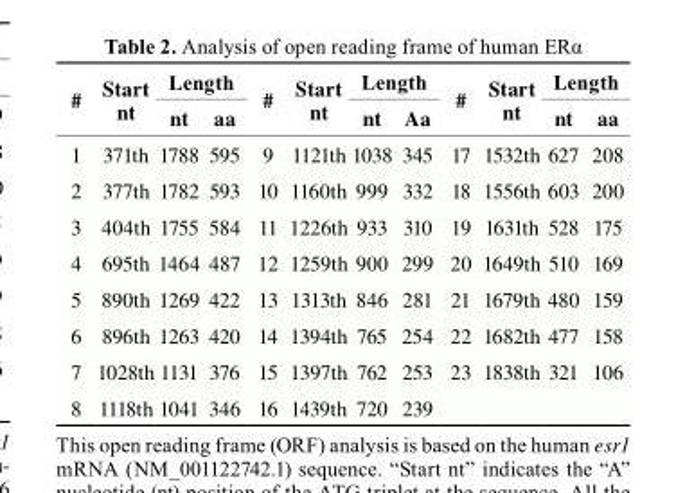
<table><thead><tr><td rowspan="2">#</td><td rowspan="2">start nt</td><td colspan="2">Length</td><td rowspan="2">#</td><td rowspan="2">start nt</td><td colspan="2">Length</td><td rowspan="2">#</td><td rowspan="2">start nt</td><td colspan="2">Length</td></tr><tr><td>nt</td><td>aa</td><td>nt</td><td>Aa</td><td>nt</td><td>aa</td></tr></thead><tbody><tr><td>1</td><td>371th</td><td>1788</td><td>595</td><td>9</td><td>1121th</td><td>1038</td><td>345</td><td>17</td><td>1532th</td><td>627</td><td>208</td></tr><tr><td>2</td><td>377th</td><td>1782</td><td>593</td><td>10</td><td>1160th</td><td>999</td><td>332</td><td>18</td><td>1556th</td><td>603</td><td>200</td></tr><tr><td>3</td><td>404th</td><td>1755</td><td>584</td><td>11</td><td>1226th</td><td>933</td><td>310</td><td>19</td><td>1631th</td><td>528</td><td>175</td></tr><tr><td>4</td><td>695th</td><td>1464</td><td>487</td><td>12</td><td>1259th</td><td>900</td><td>299</td><td>20</td><td>1649th</td><td>510</td><td>169</td></tr><tr><td>5</td><td>890th</td><td>1269</td><td>422</td><td>13</td><td>1313th</td><td>846</td><td>281</td><td>21</td><td>1679th</td><td>480</td><td>159</td></tr><tr><td>6</td><td>896th</td><td>1263</td><td>420</td><td>14</td><td>1394th</td><td>765</td><td>254</td><td>22</td><td>1682th</td><td>477</td><td>158</td></tr><tr><td>7</td><td>1028th</td><td>1131</td><td>376</td><td>15</td><td>1397th</td><td>762</td><td>253</td><td>23</td><td>1838th</td><td>321</td><td>106</td></tr><tr><td>8</td><td>1118th</td><td>1041</td><td>346</td><td>16</td><td>1439th</td><td>720</td><td>239</td><td></td><td></td><td></td><td></td></tr></tbody></table>